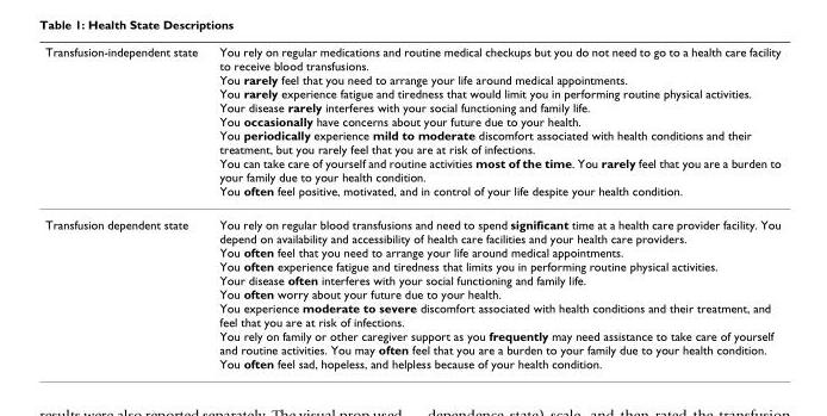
<table><thead><tr><td>Transfusion-independent state</td><td>You rely on regular medications and routine medical checkups but you do not need to go to a health care facility to receive blood transfusions. You rarely feel that you need to arrange your life around medical appointments. You rarely experience fatigue and tiredness that would limit you in performing routine physical activities. Your disease rarely interferes with your social functioning and family life. You occasionally have concerns about your future due to your health. You periodically experience mild to moderate discomfort associated with health conditions and their treatment, but you rarely feel that you are at risk of infections. You can take care of yourself and routine activities most of the time. You rarely feel that you are a burden to your family due to your health condition. You often feel positive, motivated, and in control of your life despite your health condition.</td></tr></thead><tbody><tr><td>Transfusion dependent state</td><td>You rely on regular blood transfusions and need to spend significant time at a health care provider facility. You depend on availability and accessibility of health care facilities and your health care providers. You often feel that you need to arrange your life around medical appointments. You often experience fatigue and tiredness that limits you in performing routine physical activities. Your disease often interferes with your social functioning and family life. You often worry about your future due to your health. You experience moderate to severe discomfort associated with health conditions and their treatment, and feel that you are at risk of infections. You rely on family or other caregiver support as you frequently may need assistance to take care of yourself and routine activities. You may often feel that you are a burden to your family due to your health condition. You often feel sad, hopeless, and helpless because of your health condition.</td></tr></tbody></table>